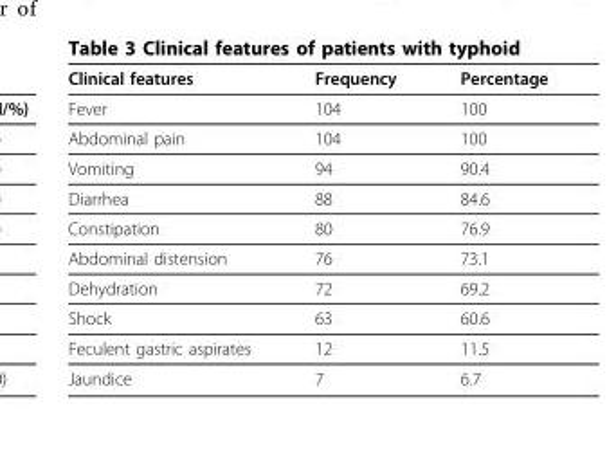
<table><thead><tr><td>Clinical features</td><td>Frequency</td><td>Percentage</td></tr></thead><tbody><tr><td>Fever</td><td>104</td><td>100</td></tr><tr><td>Abdominal pain</td><td>104</td><td>100</td></tr><tr><td>Vomiting</td><td>94</td><td>90.4</td></tr><tr><td>Diarrhea</td><td>88</td><td>84.6</td></tr><tr><td>Constipation</td><td>80</td><td>76.9</td></tr><tr><td>Abdominal distension</td><td>76</td><td>73.1</td></tr><tr><td>Dehydration</td><td>72</td><td>69.2</td></tr><tr><td>Shock</td><td>63</td><td>60.6</td></tr><tr><td>Feculent gastric aspirates</td><td>12</td><td>11.5</td></tr><tr><td>Jaundice</td><td>7</td><td>6.7</td></tr></tbody></table>